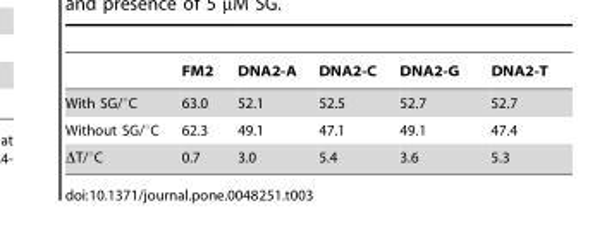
<table><thead><tr><td></td><td>FM2</td><td>DNA2-A</td><td>DNA2-C</td><td>DNA2-G</td><td>DNA2-T</td></tr></thead><tbody><tr><td>With SG/°C</td><td>63.0</td><td>52.1</td><td>52.5</td><td>52.7</td><td>52.7</td></tr><tr><td>Without SG/°C</td><td>62.3</td><td>49.1</td><td>47.1</td><td>49.1</td><td>47.4</td></tr><tr><td>ΔT/°C</td><td>0.7</td><td>3.0</td><td>5.4</td><td>3.6</td><td>5.3</td></tr></tbody></table>